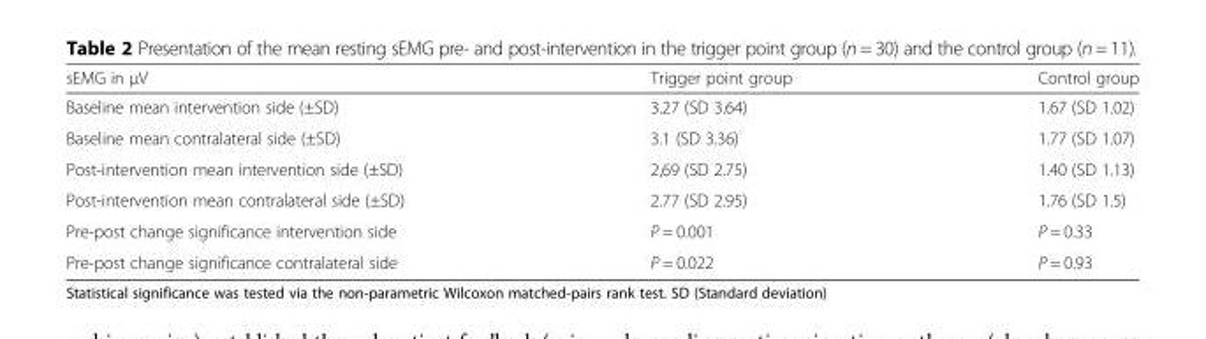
<table><thead><tr><td>sEMG in μV</td><td>Trigger point group</td><td>Control group</td></tr></thead><tbody><tr><td>Baseline mean intervention side (±SD)</td><td>3.27 (SD 3.64)</td><td>1.67 (SD 1.02)</td></tr><tr><td>Baseline mean contralateral side (±SD)</td><td>3.1 (SD 3.36)</td><td>1.77 (SD 1.07)</td></tr><tr><td>Post-intervention mean intervention side (±SD)</td><td>2,69 (SD 2.75)</td><td>1.40 (SD 1.13)</td></tr><tr><td>Post-intervention mean contralateral side (±SD)</td><td>2.77 (SD 2.95)</td><td>1.76 (SD 1.5)</td></tr><tr><td>Pre-post change significance intervention side</td><td>P = 0.001</td><td>P = 0.33</td></tr><tr><td>Pre-post change significance contralateral side</td><td>P = 0.022</td><td>P = 0.93</td></tr></tbody></table>